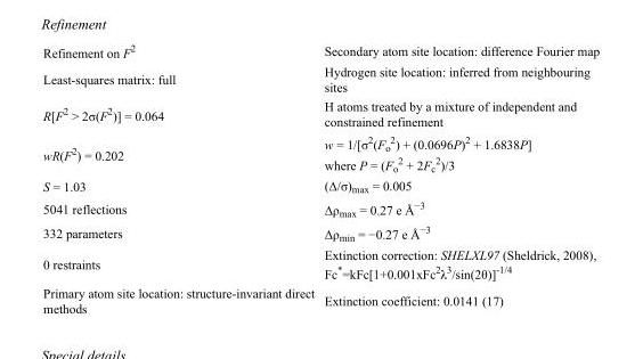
<table><tbody><tr><td>Refinement on F<sup>2</sup></td><td>Secondary atom site location: difference Fourier map</td></tr><tr><td>Least-squares matrix: full</td><td>Hydrogen site location: inferred from neighbouring sites</td></tr><tr><td>R[F<sup>2</sup> &gt; 2σ(F<sup>2</sup>)] = 0.064</td><td>H atoms treated by a mixture of independent and constrained refinement</td></tr><tr><td>wR(F<sup>2</sup>) = 0.202</td><td>w = 1/[σ<sup>2</sup>(F<sub>o</sub> <sup>2</sup>) + (0.0696P)<sup>2</sup> + 1.6838P] where P = (F<sub>o</sub> <sup>2</sup> + 2F<sub>c</sub> <sup>2</sup>)/3</td></tr><tr><td>S = 1.03</td><td>(Δ/σ)<sub>max</sub> = 0.005</td></tr><tr><td>5041 reflections</td><td>Δρ<sub>max</sub> = 0.27 e Å<sup>−3</sup></td></tr><tr><td>332 parameters</td><td>Δρ<sub>min</sub> = −0.27 e Å<sup>−3</sup></td></tr><tr><td>0 restraints</td><td>Extinction correction: SHELXL97 (Sheldrick, 2008), Fc*=kFc[1+0.001xFc<sup>2</sup>λ<sup>3</sup>/sin(2θ)]<sup>-1/4</sup></td></tr><tr><td>Primary atom site location: structure-invariant direct methods</td><td>Extinction coefficient: 0.0141 (17)</td></tr></tbody></table>